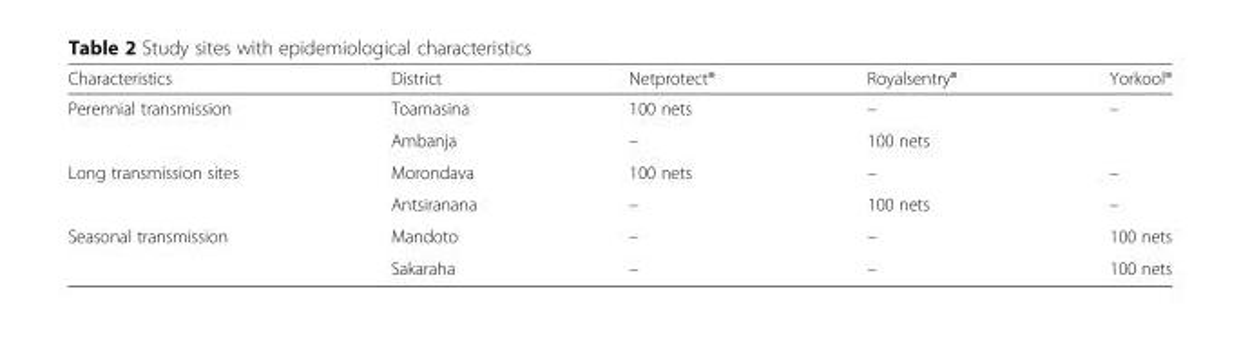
<table><thead><tr><td>Characteristics</td><td>District</td><td>Netprotect®</td><td>Royalsentry®</td><td>Yorkool®</td></tr></thead><tbody><tr><td rowspan="2">Perennial transmission</td><td>Toamasina</td><td>100 nets</td><td>–</td><td>–</td></tr><tr><td>Ambanja</td><td>–</td><td>100 nets</td><td></td></tr><tr><td rowspan="2">Long transmission sites</td><td>Morondava</td><td>100 nets</td><td>–</td><td>–</td></tr><tr><td>Antsiranana</td><td>–</td><td>100 nets</td><td>–</td></tr><tr><td rowspan="2">Seasonal transmission</td><td>Mandoto</td><td>–</td><td>–</td><td>100 nets</td></tr><tr><td>Sakaraha</td><td>–</td><td>–</td><td>100 nets</td></tr></tbody></table>